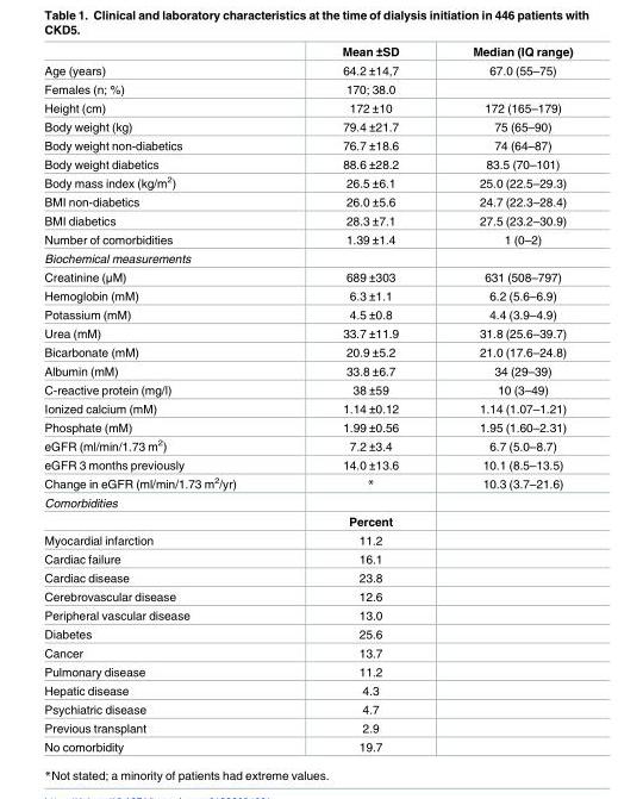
<table><thead><tr><td></td><td>Mean ±SD</td><td>Median (IQ range)</td></tr></thead><tbody><tr><td>Age (years)</td><td>64.2 ±14,7</td><td>67.0 (55–75)</td></tr><tr><td>Females (n; %)</td><td>170; 38.0</td><td></td></tr><tr><td>Height (cm)</td><td>172 ±10</td><td>172 (165–179)</td></tr><tr><td>Body weight (kg)</td><td>79.4 ±21.7</td><td>75 (65–90)</td></tr><tr><td>Body weight non-diabetics</td><td>76.7 ±18.6</td><td>74 (64–87)</td></tr><tr><td>Body weight diabetics</td><td>88.6 ±28.2</td><td>83.5 (70–101)</td></tr><tr><td>Body mass index (kg/m<sup>2</sup>)</td><td>26.5 ±6.1</td><td>25.0 (22.5–29.3)</td></tr><tr><td>BMI non-diabetics</td><td>26.0 ±5.6</td><td>24.7 (22.3–28.4)</td></tr><tr><td>BMI diabetics</td><td>28.3 ±7.1</td><td>27.5 (23.2–30.9)</td></tr><tr><td>Number of comorbidities</td><td>1.39 ±1.4</td><td>1 (0–2)</td></tr><tr><td colspan="3">Biochemical measurements</td></tr><tr><td>Creatinine (μM)</td><td>689 ±303</td><td>631 (508–797)</td></tr><tr><td>Hemoglobin (mM)</td><td>6.3 ±1.1</td><td>6.2 (5.6–6.9)</td></tr><tr><td>Potassium (mM)</td><td>4.5 ±0.8</td><td>4.4 (3.9–4.9)</td></tr><tr><td>Urea (mM)</td><td>33.7 ±11.9</td><td>31.8 (25.6–39.7)</td></tr><tr><td>Bicarbonate (mM)</td><td>20.9 ±5.2</td><td>21.0 (17.6–24.8)</td></tr><tr><td>Albumin (mM)</td><td>33.8 ±6.7</td><td>34 (29–39)</td></tr><tr><td>C-reactive protein (mg/l)</td><td>38 ±59</td><td>10 (3–49)</td></tr><tr><td>Ionized calcium (mM)</td><td>1.14 ±0.12</td><td>1.14 (1.07–1.21)</td></tr><tr><td>Phosphate (mM)</td><td>1.99 ±0.56</td><td>1.95 (1.60–2.31)</td></tr><tr><td>eGFR (ml/min/1.73 m<sup>2</sup>)</td><td>7.2 ±3.4</td><td>6.7 (5.0–8.7)</td></tr><tr><td>eGFR 3 months previously</td><td>14.0 ±13.6</td><td>10.1 (8.5–13.5)</td></tr><tr><td>Change in eGFR (ml/min/1.73 m<sup>2</sup>/yr)</td><td>*</td><td>10.3 (3.7–21.6)</td></tr><tr><td colspan="3">Comorbidities</td></tr><tr><td></td><td>Percent</td><td></td></tr><tr><td>Myocardial infarction</td><td>11.2</td><td></td></tr><tr><td>Cardiac failure</td><td>16.1</td><td></td></tr><tr><td>Cardiac disease</td><td>23.8</td><td></td></tr><tr><td>Cerebrovascular disease</td><td>12.6</td><td></td></tr><tr><td>Peripheral vascular disease</td><td>13.0</td><td></td></tr><tr><td>Diabetes</td><td>25.6</td><td></td></tr><tr><td>Cancer</td><td>13.7</td><td></td></tr><tr><td>Pulmonary disease</td><td>11.2</td><td></td></tr><tr><td>Hepatic disease</td><td>4.3</td><td></td></tr><tr><td>Psychiatric disease</td><td>4.7</td><td></td></tr><tr><td>Previous transplant</td><td>2.9</td><td></td></tr><tr><td>No comorbidity</td><td>19.7</td><td></td></tr></tbody></table>